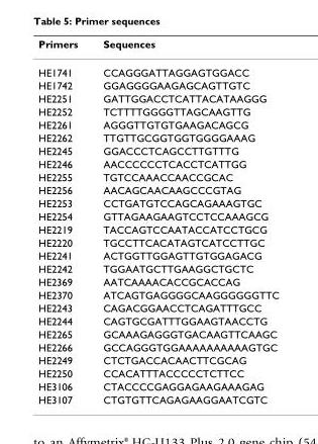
<table><thead><tr><td>Primers</td><td>Sequences</td></tr></thead><tbody><tr><td>HE1741</td><td>CCAGGGATTAGGAGTGGACC</td></tr><tr><td>HE1742</td><td>GGAGGGGAAGAGCAGTTGTC</td></tr><tr><td>HE2251</td><td>GATTGGACCTCATTACATAAGGG</td></tr><tr><td>HE2252</td><td>TCTTTTGGGGTTAGCAAGTTG</td></tr><tr><td>HE2261</td><td>AGGGTTGTGTGAAGACAGCG</td></tr><tr><td>HE2262</td><td>TTGTTGCGGTGGTGGGGAAAG</td></tr><tr><td>HE2245</td><td>GGACCCTCAGCCTTGTTTG</td></tr><tr><td>HE2246</td><td>AACCCCCCTCACCTCATTGG</td></tr><tr><td>HE2255</td><td>TGTCCAAACCAACCGCAC</td></tr><tr><td>HE2256</td><td>AACAGCAACAAGCCCGTAG</td></tr><tr><td>HE2253</td><td>CCTGATGTCCAGCAGAAAGTGC</td></tr><tr><td>HE2254</td><td>GTTAGAAGAAGTCCTCCAAAGCG</td></tr><tr><td>HE2219</td><td>TACCAGTCCAATACCATCCTGCG</td></tr><tr><td>HE2220</td><td>TGCCTTCACATAGTCATCCTTGC</td></tr><tr><td>HE2241</td><td>ACTGGTTGGAGTTGTGGAGACG</td></tr><tr><td>HE2242</td><td>TGGAATGCTTGAAGGCTGCTC</td></tr><tr><td>HE2369</td><td>AATCAAAACACCGCACCAG</td></tr><tr><td>HE2370</td><td>ATCAGTGAGGGGCAAGGGGGGTTC</td></tr><tr><td>HE2243</td><td>CAGACGGAACCTCAGATTTGCC</td></tr><tr><td>HE2244</td><td>CAGTGCGATTTGGAAGTAACCTG</td></tr><tr><td>HE2265</td><td>GCAAAGAGGGTGACAAGTTCAAGC</td></tr><tr><td>HE2266</td><td>GCCAGGGTGGAAAAAAAAAAGTGC</td></tr><tr><td>HE2249</td><td>CTCTGACCACAACTTCGCAG</td></tr><tr><td>HE2250</td><td>CCACATTTACCCCCTCTTCC</td></tr><tr><td>HE3106</td><td>CTACCCCGAGGAGAAGAAAGAG</td></tr><tr><td>HE3107</td><td>CTGTGTTCAGAGAAGGAATCGTC</td></tr></tbody></table>